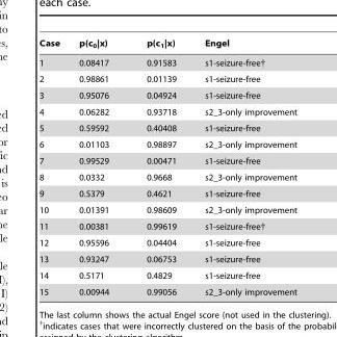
<table><thead><tr><td>Case</td><td>p(c<sub>0</sub>|x)</td><td>p(c<sub>1</sub>|x)</td><td>Engel</td></tr></thead><tbody><tr><td>1</td><td>0.08417</td><td>0.91583</td><td>s1-seizure-free†</td></tr><tr><td>2</td><td>0.98861</td><td>0.01139</td><td>s1-seizure-free</td></tr><tr><td>3</td><td>0.95076</td><td>0.04924</td><td>s1-seizure-free</td></tr><tr><td>4</td><td>0.06282</td><td>0.93718</td><td>s2_3-only improvement</td></tr><tr><td>5</td><td>0.59592</td><td>0.40408</td><td>s1-seizure-free</td></tr><tr><td>6</td><td>0.01103</td><td>0.98897</td><td>s2_3-only improvement</td></tr><tr><td>7</td><td>0.99529</td><td>0.00471</td><td>s1-seizure-free</td></tr><tr><td>8</td><td>0.0332</td><td>0.9668</td><td>s2_3-only improvement</td></tr><tr><td>9</td><td>0.5379</td><td>0.4621</td><td>s1-seizure-free</td></tr><tr><td>10</td><td>0.01391</td><td>0.98609</td><td>s2_3-only improvement</td></tr><tr><td>11</td><td>0.00381</td><td>0.99619</td><td>s1-seizure-free†</td></tr><tr><td>12</td><td>0.95596</td><td>0.04404</td><td>s1-seizure-free</td></tr><tr><td>13</td><td>0.93247</td><td>0.06753</td><td>s1-seizure-free</td></tr><tr><td>14</td><td>0.5171</td><td>0.4829</td><td>s1-seizure-free</td></tr><tr><td>15</td><td>0.00944</td><td>0.99056</td><td>s2_3-only improvement</td></tr></tbody></table>